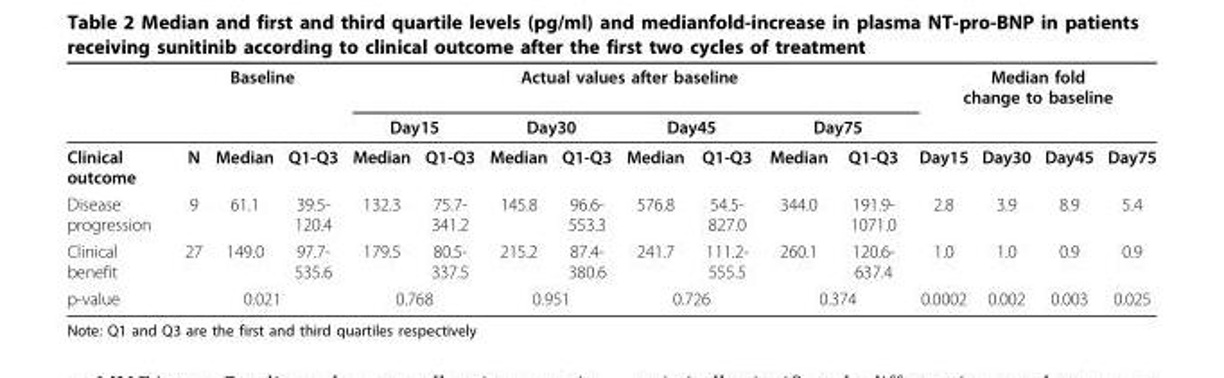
<table><thead><tr><td rowspan="3">Clinical outcome</td><td colspan="3">Baseline</td><td colspan="8">Actual values after baseline</td><td colspan="4">Median fold change to baseline</td></tr><tr><td rowspan="2">N</td><td rowspan="2">Median</td><td rowspan="2">Q1-Q3</td><td colspan="2">Day15</td><td colspan="2">Day30</td><td colspan="2">Day45</td><td colspan="2">Day75</td><td rowspan="2">Day15</td><td rowspan="2">Day30</td><td rowspan="2">Day45</td><td rowspan="2">Day75</td></tr><tr><td>Median</td><td>Q1-Q3</td><td>Median</td><td>Q1-Q3</td><td>Median</td><td>Q1-Q3</td><td>Median</td><td>Q1-Q3</td></tr></thead><tbody><tr><td>Disease progression</td><td>9</td><td>61.1</td><td>39.5- 120.4</td><td>132.3</td><td>75.7- 341.2</td><td>145.8</td><td>96.6- 553.3</td><td>576.8</td><td>54.5- 827.0</td><td>344.0</td><td>191.9- 1071.0</td><td>2.8</td><td>3.9</td><td>8.9</td><td>5.4</td></tr><tr><td>Clinical benefit</td><td>27</td><td>149.0</td><td>97.7- 535.6</td><td>179.5</td><td>80.5- 337.5</td><td>215.2</td><td>87.4- 380.6</td><td>241.7</td><td>111.2- 555.5</td><td>260.1</td><td>120.6- 637.4</td><td>1.0</td><td>1.0</td><td>0.9</td><td>0.9</td></tr><tr><td>p-value</td><td colspan="3">0.021</td><td colspan="2">0.768</td><td colspan="2">0.951</td><td colspan="2">0.726</td><td colspan="2">0.374</td><td>0.0002</td><td>0.002</td><td>0.003</td><td>0.025</td></tr></tbody></table>